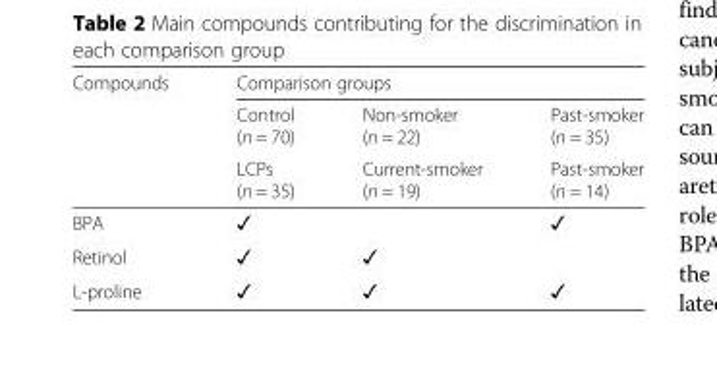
<table><thead><tr><td rowspan="3">Compounds</td><td colspan="3">Comparison groups</td></tr><tr><td rowspan="2">Control (n = 70) LCPs (n = 35)</td><td rowspan="2">Non-smoker (n = 22) Current-smoker (n = 19)</td><td rowspan="2">Past-smoker (n = 35) Past-smoker (n = 14)</td></tr><tr></tr></thead><tbody><tr><td>BPA</td><td>✓</td><td></td><td>✓</td></tr><tr><td>Retinol</td><td>✓</td><td>✓</td><td></td></tr><tr><td>L-proline</td><td>✓</td><td>✓</td><td>✓</td></tr></tbody></table>